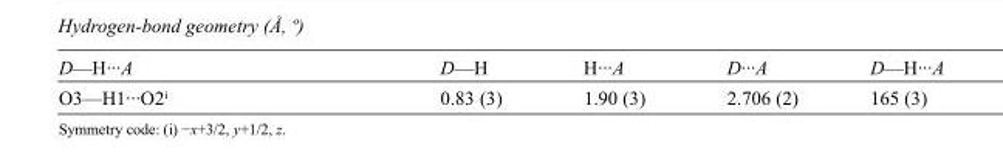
<table><tbody><tr><td>D—H···A</td><td>D—H</td><td>H···A</td><td>D···A</td><td>D—H···A</td></tr><tr><td>O3—H1···O2<sup>i</sup></td><td>0.83 (3)</td><td>1.90 (3)</td><td>2.706 (2)</td><td>165 (3)</td></tr></tbody></table>